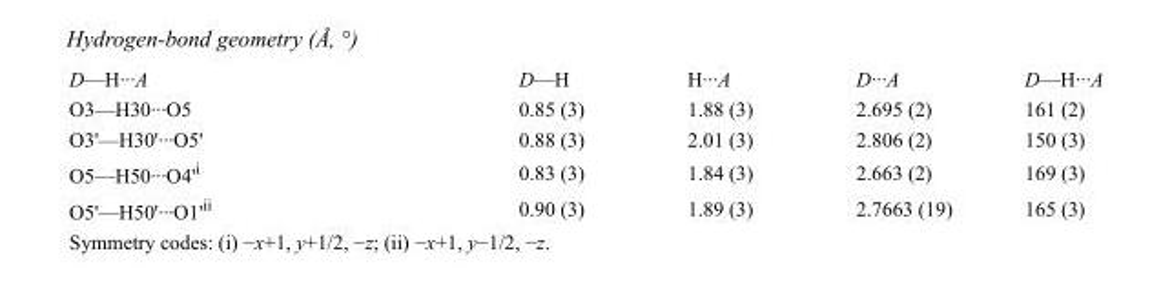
<table><tbody><tr><td>D—H···A</td><td>D—H</td><td>H···A</td><td>D···A</td><td>D—H···A</td></tr><tr><td>O3—H30···O5</td><td>0.85 (3)</td><td>1.88 (3)</td><td>2.695 (2)</td><td>161 (2)</td></tr><tr><td>O3&#x27;—H30&#x27;···O5&#x27;</td><td>0.88 (3)</td><td>2.01 (3)</td><td>2.806 (2)</td><td>150 (3)</td></tr><tr><td>O5—H50···O4&#x27;<sup>i</sup></td><td>0.83 (3)</td><td>1.84 (3)</td><td>2.663 (2)</td><td>169 (3)</td></tr><tr><td>O5&#x27;—H50&#x27;···O1&#x27;<sup>ii</sup></td><td>0.90 (3)</td><td>1.89 (3)</td><td>2.7663 (19)</td><td>165 (3)</td></tr></tbody></table>